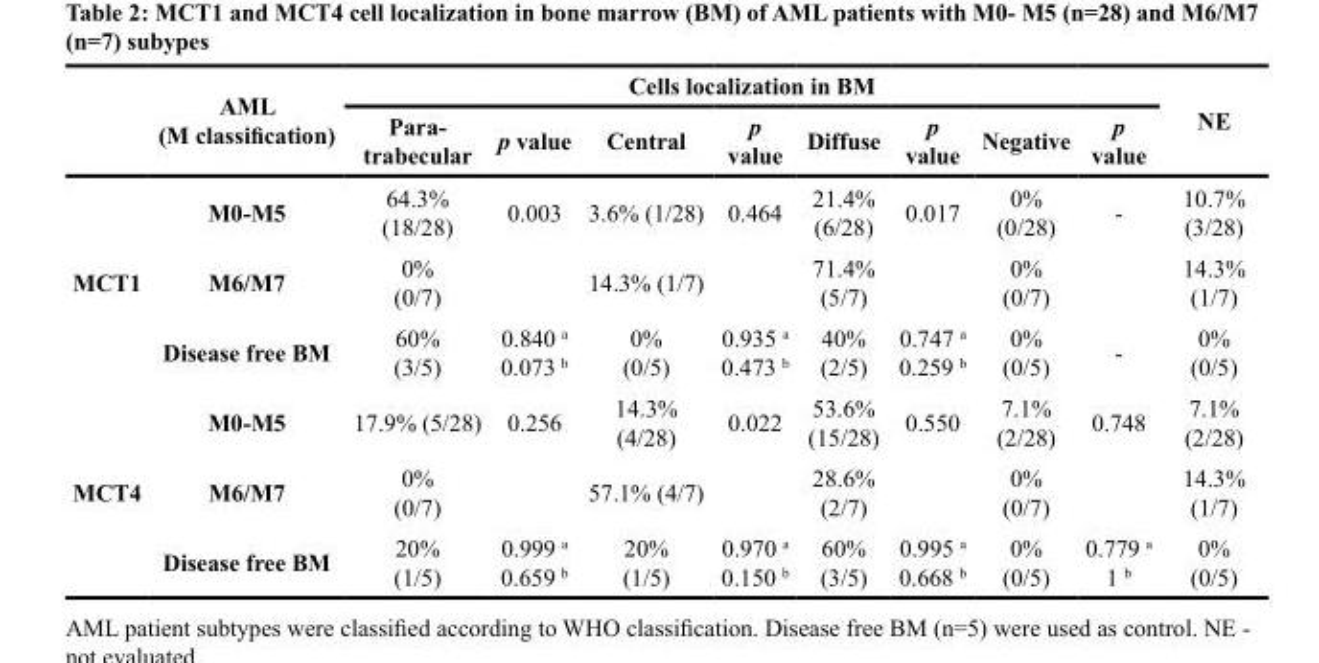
<table><thead><tr><td rowspan="2"></td><td rowspan="2">AML (M classification)</td><td colspan="8">Cells localization in BM</td><td rowspan="2">NE</td></tr><tr><td>Para- trabecular</td><td>p value</td><td>Central</td><td>p value</td><td>Diffuse</td><td>p value</td><td>Negative</td><td>p value</td></tr></thead><tbody><tr><td rowspan="3">MCT1</td><td>M0-M5</td><td>64.3% (18/28)</td><td>0.003</td><td>3.6% (1/28)</td><td>0.464</td><td>21.4% (6/28)</td><td>0.017</td><td>0% (0/28)</td><td>-</td><td>10.7% (3/28)</td></tr><tr><td>M6/M7</td><td>0% (0/7)</td><td></td><td>14.3% (1/7)</td><td></td><td>71.4% (5/7)</td><td></td><td>0% (0/7)</td><td></td><td>14.3% (1/7)</td></tr><tr><td>Disease free BM</td><td>60% (3/5)</td><td>0.840 <sup>a</sup> 0.073 <sup>b</sup></td><td>0% (0/5)</td><td>0.935 <sup>a</sup> 0.473 <sup>b</sup></td><td>40% (2/5)</td><td>0.747 <sup>a</sup> 0.259 <sup>b</sup></td><td>0% (0/5)</td><td>-</td><td>0% (0/5)</td></tr><tr><td rowspan="3">MCT4</td><td>M0-M5</td><td>17.9% (5/28)</td><td>0.256</td><td>14.3% (4/28)</td><td>0.022</td><td>53.6% (15/28)</td><td>0.550</td><td>7.1% (2/28)</td><td>0.748</td><td>7.1% (2/28)</td></tr><tr><td>M6/M7</td><td>0% (0/7)</td><td></td><td>57.1% (4/7)</td><td></td><td>28.6% (2/7)</td><td></td><td>0% (0/7)</td><td></td><td>14.3% (1/7)</td></tr><tr><td>Disease free BM</td><td>20% (1/5)</td><td>0.999 <sup>a</sup> 0.659 <sup>b</sup></td><td>20% (1/5)</td><td>0.970 <sup>a</sup> 0.150 <sup>b</sup></td><td>60% (3/5)</td><td>0.995 <sup>a</sup> 0.668 <sup>b</sup></td><td>0% (0/5)</td><td>0.779 <sup>a</sup> 1 <sup>b</sup></td><td>0% (0/5)</td></tr></tbody></table>